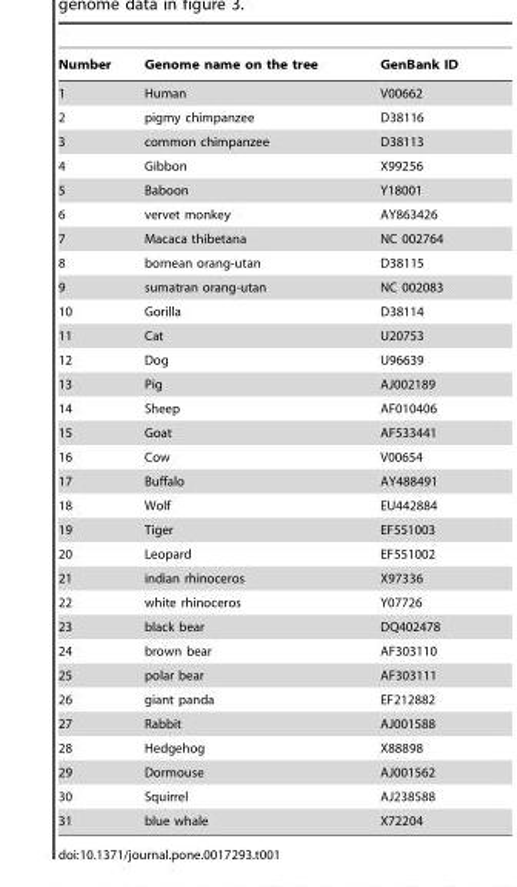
<table><thead><tr><td>Number</td><td>Genome name on the tree</td><td>GenBank ID</td></tr></thead><tbody><tr><td>1</td><td>Human</td><td>V00662</td></tr><tr><td>2</td><td>pigmy chimpanzee</td><td>D38116</td></tr><tr><td>3</td><td>common chimpanzee</td><td>D38113</td></tr><tr><td>4</td><td>Gibbon</td><td>X99256</td></tr><tr><td>5</td><td>Baboon</td><td>Y18001</td></tr><tr><td>6</td><td>vervet monkey</td><td>AY863426</td></tr><tr><td>7</td><td>Macaca thibetana</td><td>NC 002764</td></tr><tr><td>8</td><td>bornean orang-utan</td><td>D38115</td></tr><tr><td>9</td><td>sumatran orang-utan</td><td>NC 002083</td></tr><tr><td>10</td><td>Gorilla</td><td>D38114</td></tr><tr><td>11</td><td>Cat</td><td>U20753</td></tr><tr><td>12</td><td>Dog</td><td>U96639</td></tr><tr><td>13</td><td>Pig</td><td>AJ002189</td></tr><tr><td>14</td><td>Sheep</td><td>AF010406</td></tr><tr><td>15</td><td>Goat</td><td>AF533441</td></tr><tr><td>16</td><td>Cow</td><td>V00654</td></tr><tr><td>17</td><td>Buffalo</td><td>AY488491</td></tr><tr><td>18</td><td>Wolf</td><td>EU442884</td></tr><tr><td>19</td><td>Tiger</td><td>EF551003</td></tr><tr><td>20</td><td>Leopard</td><td>EF551002</td></tr><tr><td>21</td><td>indian rhinoceros</td><td>X97336</td></tr><tr><td>22</td><td>white rhinoceros</td><td>Y07726</td></tr><tr><td>23</td><td>black bear</td><td>DQ402478</td></tr><tr><td>24</td><td>brown bear</td><td>AF303110</td></tr><tr><td>25</td><td>polar bear</td><td>AF303111</td></tr><tr><td>26</td><td>giant panda</td><td>EF212882</td></tr><tr><td>27</td><td>Rabbit</td><td>AJ001588</td></tr><tr><td>28</td><td>Hedgehog</td><td>X88898</td></tr><tr><td>29</td><td>Dormouse</td><td>AJ001562</td></tr><tr><td>30</td><td>Squirrel</td><td>AJ238588</td></tr><tr><td>31</td><td>blue whale</td><td>X72204</td></tr></tbody></table>